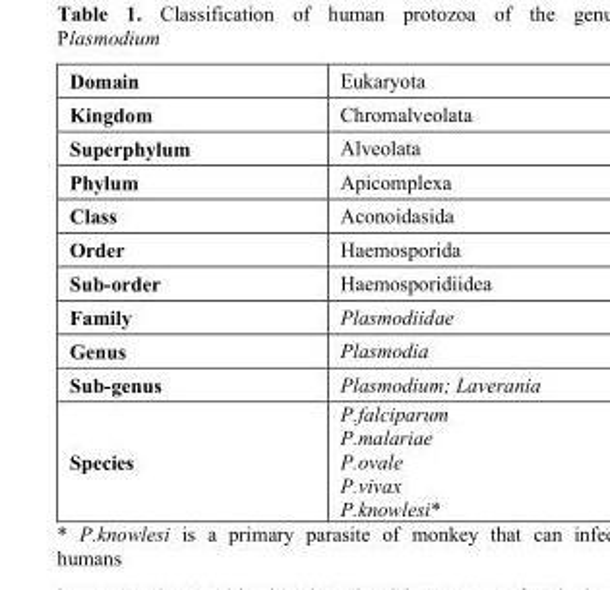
<table><tbody><tr><td>Domain</td><td>Eukaryota</td></tr><tr><td>Kingdom</td><td>Chromalveolata</td></tr><tr><td>Superphylum</td><td>Alveolata</td></tr><tr><td>Phylum</td><td>Apicomplexa</td></tr><tr><td>Class</td><td>Aconoidasida</td></tr><tr><td>Order</td><td>Haemosporida</td></tr><tr><td>Sub-order</td><td>Haemosporidiidea</td></tr><tr><td>Family</td><td>Plasmodiidae</td></tr><tr><td>Genus</td><td>Plasmodia</td></tr><tr><td>Sub-genus</td><td>Plasmodium; Laverania</td></tr><tr><td>Species</td><td>P.falciparum P.malariae P.ovale P.vivax P.knowlesi*</td></tr></tbody></table>